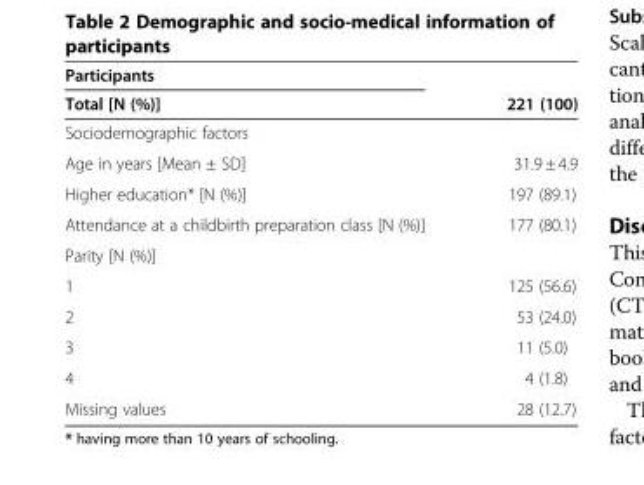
<table><thead><tr><td rowspan="2">Participants Total [N (%)]</td><td rowspan="2">221 (100)</td></tr><tr></tr></thead><tbody><tr><td colspan="2">Sociodemographic factors</td></tr><tr><td>Age in years [Mean ± SD]</td><td>31.9 ± 4.9</td></tr><tr><td>Higher education* [N (%)]</td><td>197 (89.1)</td></tr><tr><td>Attendance at a childbirth preparation class [N (%)]</td><td>177 (80.1)</td></tr><tr><td colspan="2">Parity [N (%)]</td></tr><tr><td>1</td><td>125 (56.6)</td></tr><tr><td>2</td><td>53 (24.0)</td></tr><tr><td>3</td><td>11 (5.0)</td></tr><tr><td>4</td><td>4 (1.8)</td></tr><tr><td>Missing values</td><td>28 (12.7)</td></tr></tbody></table>